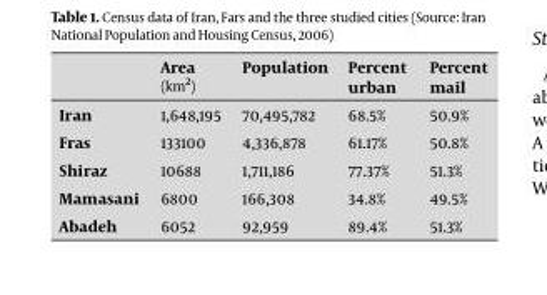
<table><thead><tr><td></td><td>Area (km2)</td><td>Population</td><td>Percent urban</td><td>Percent mail</td></tr></thead><tbody><tr><td>Iran</td><td>1,648,195</td><td>70,495,782</td><td>68.5%</td><td>50.9%</td></tr><tr><td>Fras</td><td>133100</td><td>4,336,878</td><td>61.17%</td><td>50.8%</td></tr><tr><td>Shiraz</td><td>10688</td><td>1,711,186</td><td>77.37%</td><td>51.3%</td></tr><tr><td>Mamasani</td><td>6800</td><td>166,308</td><td>34.8%</td><td>49.5%</td></tr><tr><td>Abadeh</td><td>6052</td><td>92,959</td><td>89.4%</td><td>51.3%</td></tr></tbody></table>